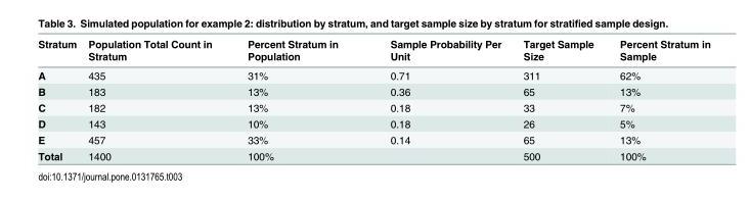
<table><thead><tr><td>Stratum</td><td>Population Total Count in Stratum</td><td>Percent Stratum in Population</td><td>Sample Probability Per Unit</td><td>Target Sample Size</td><td>Percent Stratum in Sample</td></tr></thead><tbody><tr><td>A</td><td>435</td><td>31%</td><td>0.71</td><td>311</td><td>62%</td></tr><tr><td>B</td><td>183</td><td>13%</td><td>0.36</td><td>65</td><td>13%</td></tr><tr><td>C</td><td>182</td><td>13%</td><td>0.18</td><td>33</td><td>7%</td></tr><tr><td>D</td><td>143</td><td>10%</td><td>0.18</td><td>26</td><td>5%</td></tr><tr><td>E</td><td>457</td><td>33%</td><td>0.14</td><td>65</td><td>13%</td></tr><tr><td>Total</td><td>1400</td><td>100%</td><td></td><td>500</td><td>100%</td></tr></tbody></table>